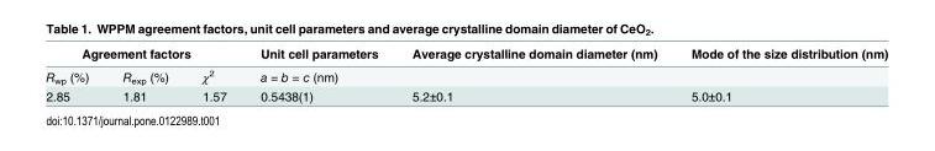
<table><thead><tr><td colspan="3">Agreement factors</td><td rowspan="2">Unit cell parameters a = b = c (nm)</td><td rowspan="2">Average crystalline domain diameter (nm)</td><td rowspan="2">Mode of the size distribution (nm)</td></tr><tr><td>R<sub>wp</sub> (%)</td><td>R<sub>exp</sub> (%)</td><td>χ<sup>2</sup></td></tr></thead><tbody><tr><td>2.85</td><td>1.81</td><td>1.57</td><td>0.5438(1)</td><td>5.2±0.1</td><td>5.0±0.1</td></tr></tbody></table>